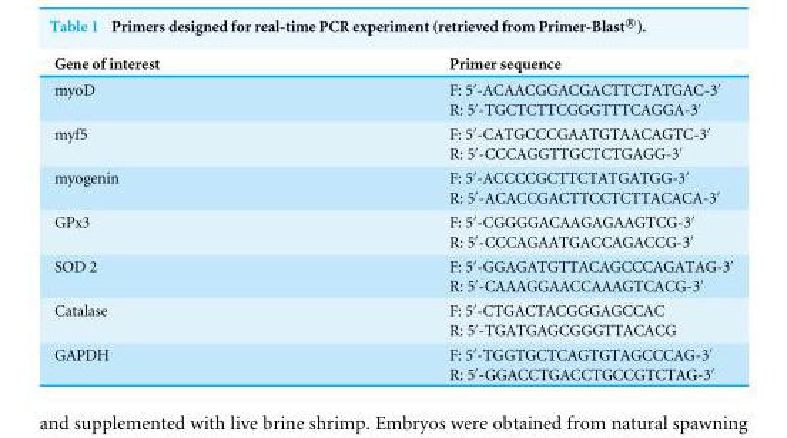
<table><thead><tr><td>Gene of interest</td><td>Primer sequence</td></tr></thead><tbody><tr><td>myoD</td><td>F: 5′-ACAACGGACGACTTCTATGAC-3′ R: 5′-TGCTCTTCGGGTTTCAGGA-3′</td></tr><tr><td>myf5</td><td>F: 5′-CATGCCCGAATGTAACAGTC-3′ R: 5′-CCCAGGTTGCTCTGAGG-3′</td></tr><tr><td>myogenin</td><td>F: 5′-ACCCCGCTTCTATGATGG-3′ R: 5′-ACACCGACTTCCTCTTACACA-3′</td></tr><tr><td>GPx3</td><td>F: 5′-CGGGGACAAGAGAAGTCG-3′ R: 5′-CCCAGAATGACCAGACCG-3′</td></tr><tr><td>SOD 2</td><td>F: 5′-GGAGATGTTACAGCCCAGATAG-3′ R: 5′-CAAAGGAACCAAAGTCACG-3′</td></tr><tr><td>Catalase</td><td>F: 5′-CTGACTACGGGAGCCAC R: 5′-TGATGAGCGGGTTACACG</td></tr><tr><td>GAPDH</td><td>F: 5′-TGGTGCTCAGTGTAGCCCAG-3′ R: 5′-GGACCTGACCTGCCGTCTAG-3′</td></tr></tbody></table>